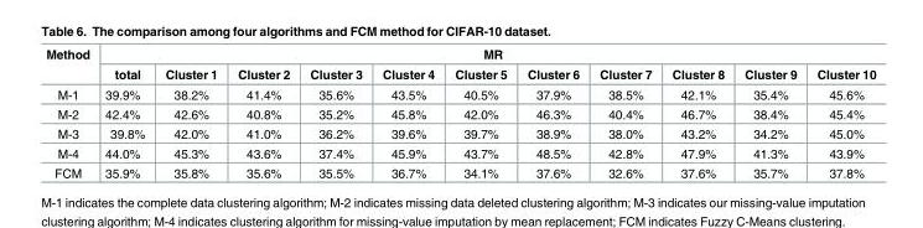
<table><thead><tr><td rowspan="2">Method</td><td colspan="11">MR</td></tr><tr><td>total</td><td>Cluster 1</td><td>Cluster 2</td><td>Cluster 3</td><td>Cluster 4</td><td>Cluster 5</td><td>Cluster 6</td><td>Cluster 7</td><td>Cluster 8</td><td>Cluster 9</td><td>Cluster 10</td></tr></thead><tbody><tr><td>M-1</td><td>39.9%</td><td>38.2%</td><td>41.4%</td><td>35.6%</td><td>43.5%</td><td>40.5%</td><td>37.9%</td><td>38.5%</td><td>42.1%</td><td>35.4%</td><td>45.6%</td></tr><tr><td>M-2</td><td>42.4%</td><td>42.6%</td><td>40.8%</td><td>35.2%</td><td>45.8%</td><td>42.0%</td><td>46.3%</td><td>40.4%</td><td>46.7%</td><td>38.4%</td><td>45.4%</td></tr><tr><td>M-3</td><td>39.8%</td><td>42.0%</td><td>41.0%</td><td>36.2%</td><td>39.6%</td><td>39.7%</td><td>38.9%</td><td>38.0%</td><td>43.2%</td><td>34.2%</td><td>45.0%</td></tr><tr><td>M-4</td><td>44.0%</td><td>45.3%</td><td>43.6%</td><td>37.4%</td><td>45.9%</td><td>43.7%</td><td>48.5%</td><td>42.8%</td><td>47.9%</td><td>41.3%</td><td>43.9%</td></tr><tr><td>FCM</td><td>35.9%</td><td>35.8%</td><td>35.6%</td><td>35.5%</td><td>36.7%</td><td>34.1%</td><td>37.6%</td><td>32.6%</td><td>37.6%</td><td>35.7%</td><td>37.8%</td></tr></tbody></table>